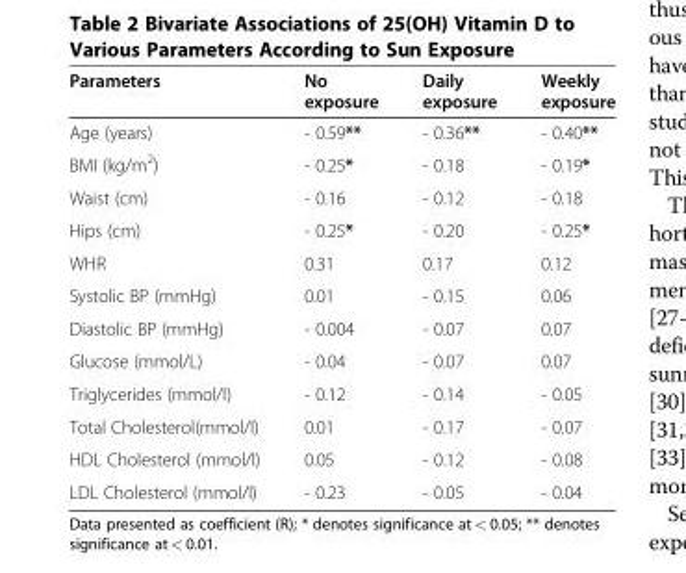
<table><thead><tr><td>Parameters</td><td>No exposure</td><td>Daily exposure</td><td>Weekly exposure</td></tr></thead><tbody><tr><td>Age (years)</td><td>- 0.59**</td><td>- 0.36**</td><td>- 0.40**</td></tr><tr><td>BMI (kg/m<sup>2</sup>)</td><td>- 0.25*</td><td>- 0.18</td><td>- 0.19*</td></tr><tr><td>Waist (cm)</td><td>- 0.16</td><td>- 0.12</td><td>- 0.18</td></tr><tr><td>Hips (cm)</td><td>- 0.25*</td><td>- 0.20</td><td>- 0.25*</td></tr><tr><td>WHR</td><td>0.31</td><td>0.17</td><td>0.12</td></tr><tr><td>Systolic BP (mmHg)</td><td>0.01</td><td>- 0.15</td><td>0.06</td></tr><tr><td>Diastolic BP (mmHg)</td><td>- 0.004</td><td>- 0.07</td><td>0.07</td></tr><tr><td>Glucose (mmol/L)</td><td>- 0.04</td><td>- 0.07</td><td>0.07</td></tr><tr><td>Triglycerides (mmol/l)</td><td>- 0.12</td><td>- 0.14</td><td>- 0.05</td></tr><tr><td>Total Cholesterol(mmol/l)</td><td>0.01</td><td>- 0.17</td><td>- 0.07</td></tr><tr><td>HDL Cholesterol (mmol/l)</td><td>0.05</td><td>- 0.12</td><td>- 0.08</td></tr><tr><td>LDL Cholesterol (mmol/l)</td><td>- 0.23</td><td>- 0.05</td><td>- 0.04</td></tr></tbody></table>